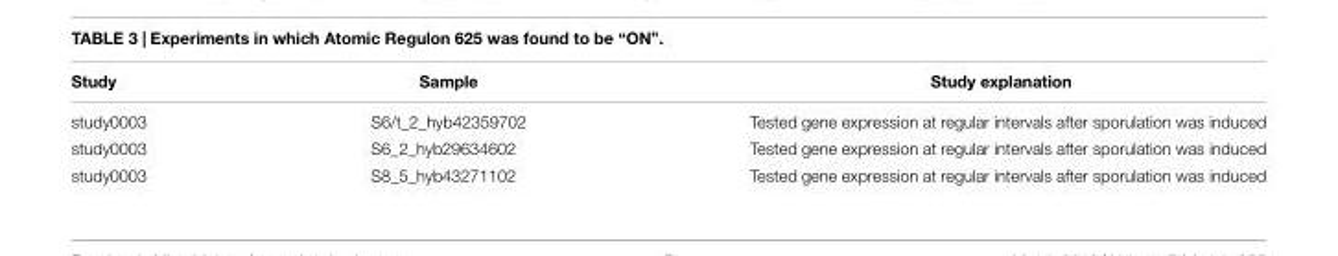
<table><thead><tr><td>Study</td><td>Sample</td><td>Study explanation</td></tr></thead><tbody><tr><td>study0003</td><td>S6/t_2_hyb42359702</td><td>Tested gene expression at regular intervals after sporulation was induced</td></tr><tr><td>study0003</td><td>S6_2_hyb29634602</td><td>Tested gene expression at regular intervals after sporulation was induced</td></tr><tr><td>study0003</td><td>S8_5_hyb43271102</td><td>Tested gene expression at regular intervals after sporulation was induced</td></tr></tbody></table>